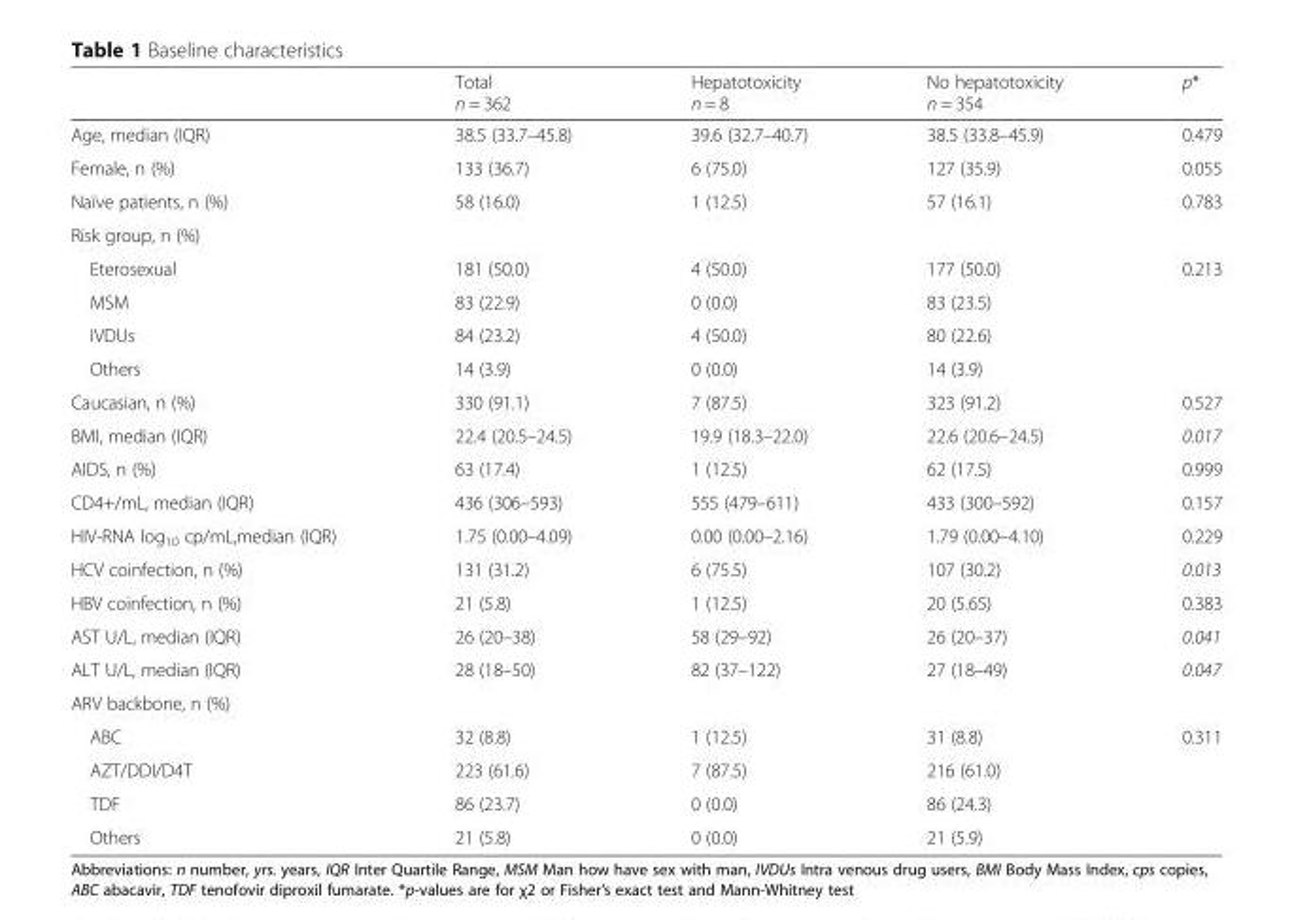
<table><thead><tr><td></td><td>Total n = 362</td><td>Hepatotoxicity n = 8</td><td>No hepatotoxicity n = 354</td><td>p*</td></tr></thead><tbody><tr><td>Age, median (IQR)</td><td>38.5 (33.7–45.8)</td><td>39.6 (32.7–40.7)</td><td>38.5 (33.8–45.9)</td><td>0.479</td></tr><tr><td>Female, n (%)</td><td>133 (36.7)</td><td>6 (75.0)</td><td>127 (35.9)</td><td>0.055</td></tr><tr><td>Naïve patients, n (%)</td><td>58 (16.0)</td><td>1 (12.5)</td><td>57 (16.1)</td><td>0.783</td></tr><tr><td colspan="5">Risk group, n (%)</td></tr><tr><td>Eterosexual</td><td>181 (50.0)</td><td>4 (50.0)</td><td>177 (50.0)</td><td rowspan="4">0.213</td></tr><tr><td>MSM</td><td>83 (22.9)</td><td>0 (0.0)</td><td>83 (23.5)</td></tr><tr><td>IVDUs</td><td>84 (23.2)</td><td>4 (50.0)</td><td>80 (22.6)</td></tr><tr><td>Others</td><td>14 (3.9)</td><td>0 (0.0)</td><td>14 (3.9)</td></tr><tr><td>Caucasian, n (%)</td><td>330 (91.1)</td><td>7 (87.5)</td><td>323 (91.2)</td><td>0.527</td></tr><tr><td>BMI, median (IQR)</td><td>22.4 (20.5–24.5)</td><td>19.9 (18.3–22.0)</td><td>22.6 (20.6–24.5)</td><td>0.017</td></tr><tr><td>AIDS, n (%)</td><td>63 (17.4)</td><td>1 (12.5)</td><td>62 (17.5)</td><td>0.999</td></tr><tr><td>CD4+/mL, median (IQR)</td><td>436 (306–593)</td><td>555 (479–611)</td><td>433 (300–592)</td><td>0.157</td></tr><tr><td>HIV-RNA log<sub>10</sub> cp/mL,median (IQR)</td><td>1.75 (0.00–4.09)</td><td>0.00 (0.00–2.16)</td><td>1.79 (0.00–4.10)</td><td>0.229</td></tr><tr><td>HCV coinfection, n (%)</td><td>131 (31.2)</td><td>6 (75.5)</td><td>107 (30.2)</td><td>0.013</td></tr><tr><td>HBV coinfection, n (%)</td><td>21 (5.8)</td><td>1 (12.5)</td><td>20 (5.65)</td><td>0.383</td></tr><tr><td>AST U/L, median (IQR)</td><td>26 (20–38)</td><td>58 (29–92)</td><td>26 (20–37)</td><td>0.041</td></tr><tr><td>ALT U/L, median (IQR)</td><td>28 (18–50)</td><td>82 (37–122)</td><td>27 (18–49)</td><td>0.047</td></tr><tr><td colspan="5">ARV backbone, n (%)</td></tr><tr><td>ABC</td><td>32 (8.8)</td><td>1 (12.5)</td><td>31 (8.8)</td><td rowspan="4">0.311</td></tr><tr><td>AZT/DDI/D4T</td><td>223 (61.6)</td><td>7 (87.5)</td><td>216 (61.0)</td></tr><tr><td>TDF</td><td>86 (23.7)</td><td>0 (0.0)</td><td>86 (24.3)</td></tr><tr><td>Others</td><td>21 (5.8)</td><td>0 (0.0)</td><td>21 (5.9)</td></tr></tbody></table>